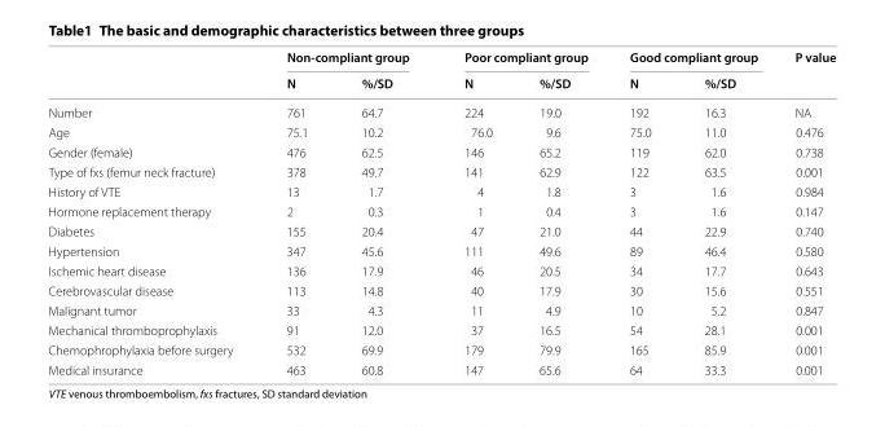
<table><thead><tr><td rowspan="2"></td><td colspan="2">Non-compliant group</td><td colspan="2">Poor compliant group</td><td colspan="2">Good compliant group</td><td rowspan="2">P value</td></tr><tr><td>N</td><td>%/SD</td><td>N</td><td>%/SD</td><td>N</td><td>%/SD</td></tr></thead><tbody><tr><td>Number</td><td>761</td><td>64.7</td><td>224</td><td>19.0</td><td>192</td><td>16.3</td><td>NA</td></tr><tr><td>Age</td><td>75.1</td><td>10.2</td><td>76.0</td><td>9.6</td><td>75.0</td><td>11.0</td><td>0.476</td></tr><tr><td>Gender (female)</td><td>476</td><td>62.5</td><td>146</td><td>65.2</td><td>119</td><td>62.0</td><td>0.738</td></tr><tr><td>Type of fxs (femur neck fracture)</td><td>378</td><td>49.7</td><td>141</td><td>62.9</td><td>122</td><td>63.5</td><td>0.001</td></tr><tr><td>History of VTE</td><td>13</td><td>1.7</td><td>4</td><td>1.8</td><td>3</td><td>1.6</td><td>0.984</td></tr><tr><td>Hormone replacement therapy</td><td>2</td><td>0.3</td><td>1</td><td>0.4</td><td>3</td><td>1.6</td><td>0.147</td></tr><tr><td>Diabetes</td><td>155</td><td>20.4</td><td>47</td><td>21.0</td><td>44</td><td>22.9</td><td>0.740</td></tr><tr><td>Hypertension</td><td>347</td><td>45.6</td><td>111</td><td>49.6</td><td>89</td><td>46.4</td><td>0.580</td></tr><tr><td>Ischemic heart disease</td><td>136</td><td>17.9</td><td>46</td><td>20.5</td><td>34</td><td>17.7</td><td>0.643</td></tr><tr><td>Cerebrovascular disease</td><td>113</td><td>14.8</td><td>40</td><td>17.9</td><td>30</td><td>15.6</td><td>0.551</td></tr><tr><td>Malignant tumor</td><td>33</td><td>4.3</td><td>11</td><td>4.9</td><td>10</td><td>5.2</td><td>0.847</td></tr><tr><td>Mechanical thromboprophylaxis</td><td>91</td><td>12.0</td><td>37</td><td>16.5</td><td>54</td><td>28.1</td><td>0.001</td></tr><tr><td>Chemophrophylaxia before surgery</td><td>532</td><td>69.9</td><td>179</td><td>79.9</td><td>165</td><td>85.9</td><td>0.001</td></tr><tr><td>Medical insurance</td><td>463</td><td>60.8</td><td>147</td><td>65.6</td><td>64</td><td>33.3</td><td>0.001</td></tr></tbody></table>